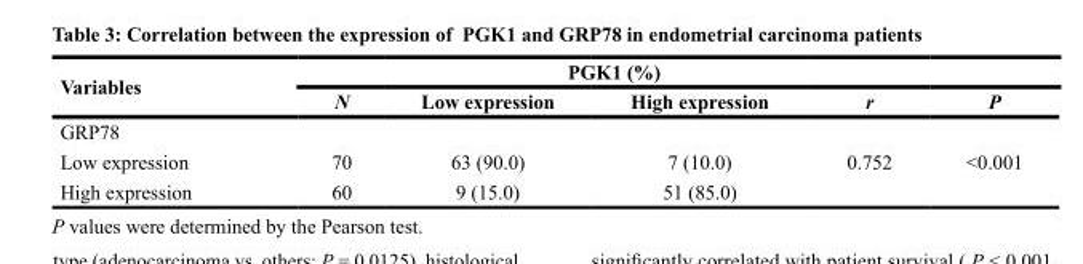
<table><thead><tr><td rowspan="2">Variables</td><td colspan="4">PGK1 (%)</td><td rowspan="2">P</td></tr><tr><td>N</td><td>Low expression</td><td>High expression</td><td>r</td></tr></thead><tbody><tr><td colspan="6">GRP78</td></tr><tr><td>Low expression</td><td>70</td><td>63 (90.0)</td><td>7 (10.0)</td><td>0.752</td><td>&lt;0.001</td></tr><tr><td>High expression</td><td>60</td><td>9 (15.0)</td><td>51 (85.0)</td><td></td><td></td></tr></tbody></table>